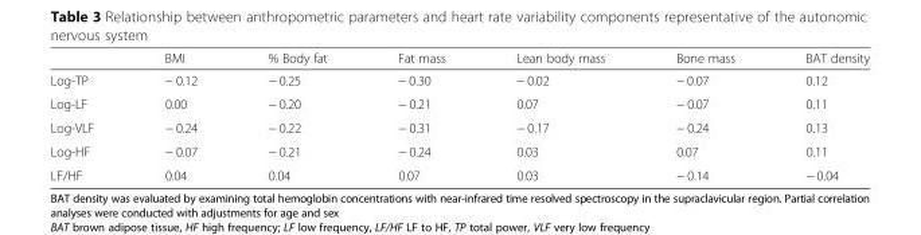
<table><thead><tr><td></td><td>BMI</td><td>% Body fat</td><td>Fat mass</td><td>Lean body mass</td><td>Bone mass</td><td>BAT density</td></tr></thead><tbody><tr><td>Log-TP</td><td>− 0.12</td><td>− 0.25</td><td>− 0.30</td><td>− 0.02</td><td>− 0.07</td><td>0.12</td></tr><tr><td>Log-LF</td><td>0.00</td><td>− 0.20</td><td>− 0.21</td><td>0.07</td><td>− 0.07</td><td>0.11</td></tr><tr><td>Log-VLF</td><td>− 0.24</td><td>− 0.22</td><td>− 0.31</td><td>− 0.17</td><td>− 0.24</td><td>0.13</td></tr><tr><td>Log-HF</td><td>− 0.07</td><td>− 0.21</td><td>− 0.24</td><td>0.03</td><td>0.07</td><td>0.11</td></tr><tr><td>LF/HF</td><td>0.04</td><td>0.04</td><td>0.07</td><td>0.03</td><td>− 0.14</td><td>− 0.04</td></tr></tbody></table>